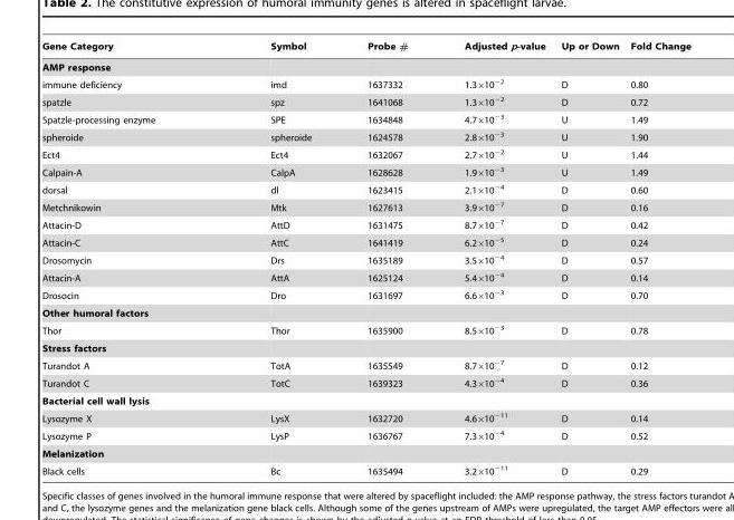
<table><thead><tr><td>Gene Category</td><td>Symbol</td><td>Probe #</td><td>Adjusted p-value</td><td>Up or Down</td><td>Fold Change</td></tr></thead><tbody><tr><td colspan="6">AMP response</td></tr><tr><td>immune deficiency</td><td>imd</td><td>1637332</td><td>1.3×10<sup>−2</sup></td><td>D</td><td>0.80</td></tr><tr><td>spatzle</td><td>spz</td><td>1641068</td><td>1.3×10<sup>−2</sup></td><td>D</td><td>0.72</td></tr><tr><td>Spatzle-processing enzyme</td><td>SPE</td><td>1634848</td><td>4.7×10<sup>−3</sup></td><td>U</td><td>1.49</td></tr><tr><td>spheroide</td><td>spheroide</td><td>1624578</td><td>2.8×10<sup>−3</sup></td><td>U</td><td>1.90</td></tr><tr><td>Ect4</td><td>Ect4</td><td>1632067</td><td>2.7×10<sup>−2</sup></td><td>U</td><td>1.44</td></tr><tr><td>Calpain-A</td><td>CalpA</td><td>1628628</td><td>1.9×10<sup>−3</sup></td><td>U</td><td>1.49</td></tr><tr><td>dorsal</td><td>dl</td><td>1623415</td><td>2.1×10<sup>−4</sup></td><td>D</td><td>0.60</td></tr><tr><td>Metchnikowin</td><td>Mtk</td><td>1627613</td><td>3.9×10<sup>−7</sup></td><td>D</td><td>0.16</td></tr><tr><td>Attacin-D</td><td>AttD</td><td>1631475</td><td>8.7×10<sup>−7</sup></td><td>D</td><td>0.42</td></tr><tr><td>Attacin-C</td><td>AttC</td><td>1641419</td><td>6.2×10<sup>−5</sup></td><td>D</td><td>0.24</td></tr><tr><td>Drosomycin</td><td>Drs</td><td>1635189</td><td>3.5×10<sup>−4</sup></td><td>D</td><td>0.57</td></tr><tr><td>Attacin-A</td><td>AttA</td><td>1625124</td><td>5.4×10<sup>−4</sup></td><td>D</td><td>0.14</td></tr><tr><td>Drosocin</td><td>Dro</td><td>1631697</td><td>6.6×10<sup>−3</sup></td><td>D</td><td>0.70</td></tr><tr><td colspan="6">Other humoral factors</td></tr><tr><td>Thor</td><td>Thor</td><td>1635900</td><td>8.5×10<sup>−3</sup></td><td>D</td><td>0.78</td></tr><tr><td colspan="6">Stress factors</td></tr><tr><td>Turandot A</td><td>TotA</td><td>1635549</td><td>8.7×10<sup>−7</sup></td><td>D</td><td>0.12</td></tr><tr><td>Turandot C</td><td>TotC</td><td>1639323</td><td>4.3×10<sup>−4</sup></td><td>D</td><td>0.36</td></tr><tr><td colspan="6">Bacterial cell wall lysis</td></tr><tr><td>Lysozyme X</td><td>LysX</td><td>1632720</td><td>4.6×10<sup>−11</sup></td><td>D</td><td>0.14</td></tr><tr><td>Lysozyme P</td><td>LysP</td><td>1636767</td><td>7.3×10<sup>−4</sup></td><td>D</td><td>0.52</td></tr><tr><td colspan="6">Melanization</td></tr><tr><td>Black cells</td><td>Bc</td><td>1635494</td><td>3.2×10<sup>−11</sup></td><td>D</td><td>0.29</td></tr></tbody></table>